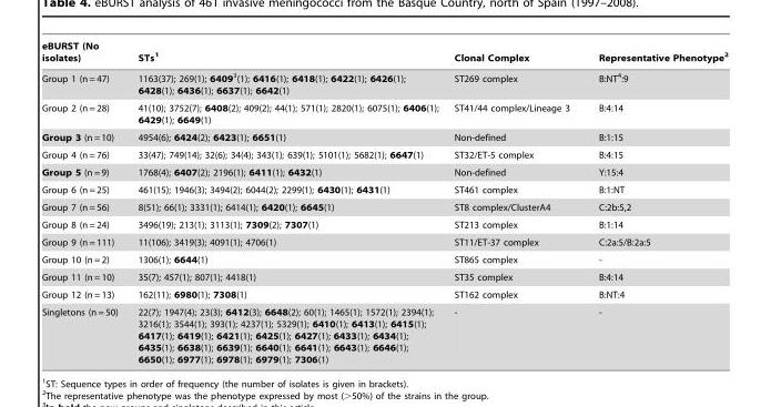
<table><thead><tr><td>eBURST (No isolates)</td><td>STs<sup>1</sup></td><td>Clonal Complex</td><td>Representative Phenotype<sup>2</sup></td></tr></thead><tbody><tr><td>Group 1 (n = 47)</td><td>1163(37); 269(1); 64093(1); 6416(1); 6418(1); 6422(1); 6426(1); 6428(1); 6436(1); 6637(1); 6642(1)</td><td>ST269 complex</td><td>B:NT<sup>4</sup>:9</td></tr><tr><td>Group 2 (n = 28)</td><td>41(10); 3752(7); 6408(2); 409(2); 44(1); 571(1); 2820(1); 6075(1); 6406(1); 6429(1); 6649(1)</td><td>ST41/44 complex/Lineage 3</td><td>B:4:14</td></tr><tr><td>Group 3 (n = 10)</td><td>4954(6); 6424(2); 6423(1); 6651(1)</td><td>Non-defined</td><td>B:1:15</td></tr><tr><td>Group 4 (n = 76)</td><td>33(47); 749(14); 32(6); 34(4); 343(1); 639(1); 5101(1); 5682(1); 6647(1)</td><td>ST32/ET-5 complex</td><td>B:4:15</td></tr><tr><td>Group 5 (n = 9)</td><td>1768(4); 6407(2); 2196(1); 6411(1); 6432(1)</td><td>Non-defined</td><td>Y:15:4</td></tr><tr><td>Group 6 (n = 25)</td><td>461(15); 1946(3); 3494(2); 6044(2); 2299(1); 6430(1); 6431(1)</td><td>ST461 complex</td><td>B:1:NT</td></tr><tr><td>Group 7 (n = 56)</td><td>8(51); 66(1); 3331(1); 6414(1); 6420(1); 6645(1)</td><td>ST8 complex/ClusterA4</td><td>C:2b:5,2</td></tr><tr><td>Group 8 (n = 24)</td><td>3496(19); 213(1); 3113(1); 7309(2); 7307(1)</td><td>ST213 complex</td><td>B:1:14</td></tr><tr><td>Group 9 (n = 111)</td><td>11(106); 3419(3); 4091(1); 4706(1)</td><td>ST11/ET-37 complex</td><td>C:2a:5/B:2a:5</td></tr><tr><td>Group 10 (n = 2)</td><td>1306(1); 6644(1)</td><td>ST865 complex</td><td>-</td></tr><tr><td>Group 11 (n = 10)</td><td>35(7); 457(1); 807(1); 4418(1)</td><td>ST35 complex</td><td>B:4:14</td></tr><tr><td>Group 12 (n = 13)</td><td>162(11); 6980(1); 7308(1)</td><td>ST162 complex</td><td>B:NT:4</td></tr><tr><td>Singletons (n = 50)</td><td>22(7); 1947(4); 23(3); 6412(3); 6648(2); 60(1); 1465(1); 1572(1); 2394(1); 3216(1); 3544(1); 393(1); 4237(1); 5329(1); 6410(1); 6413(1); 6415(1); 6417(1); 6419(1); 6421(1); 6425(1); 6427(1); 6433(1); 6434(1); 6435(1); 6638(1); 6639(1); 6640(1); 6641(1); 6643(1); 6646(1); 6650(1); 6977(1); 6978(1); 6979(1); 7306(1)</td><td>-</td><td>-</td></tr></tbody></table>